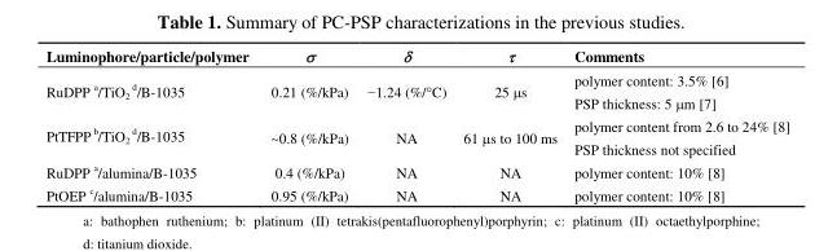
<table><thead><tr><td>Luminophore/particle/polymer</td><td></td><td></td><td></td><td>Comments</td></tr></thead><tbody><tr><td rowspan="2">RuDPP <sup>a</sup>/TiO<sub>2</sub> <sup>d</sup>/B-1035</td><td rowspan="2">0.21 (%/kPa)</td><td rowspan="2">−1.24 (%/°C)</td><td rowspan="2">25 μs</td><td>polymer content: 3.5% [6]</td></tr><tr><td>PSP thickness: 5 μm [7]</td></tr><tr><td rowspan="2">PtTFPP <sup>b</sup>/TiO<sub>2</sub> <sup>d</sup>/B-1035</td><td rowspan="2">~0.8 (%/kPa)</td><td rowspan="2">NA</td><td rowspan="2">61 μs to 100 ms</td><td>polymer content from 2.6 to 24% [8]</td></tr><tr><td>PSP thickness not specified</td></tr><tr><td>RuDPP <sup>a</sup>/alumina/B-1035</td><td>0.4 (%/kPa)</td><td>NA</td><td>NA</td><td>polymer content: 10% [8]</td></tr><tr><td>PtOEP <sup>c</sup>/alumina/B-1035</td><td>0.95 (%/kPa)</td><td>NA</td><td>NA</td><td>polymer content: 10% [8]</td></tr></tbody></table>